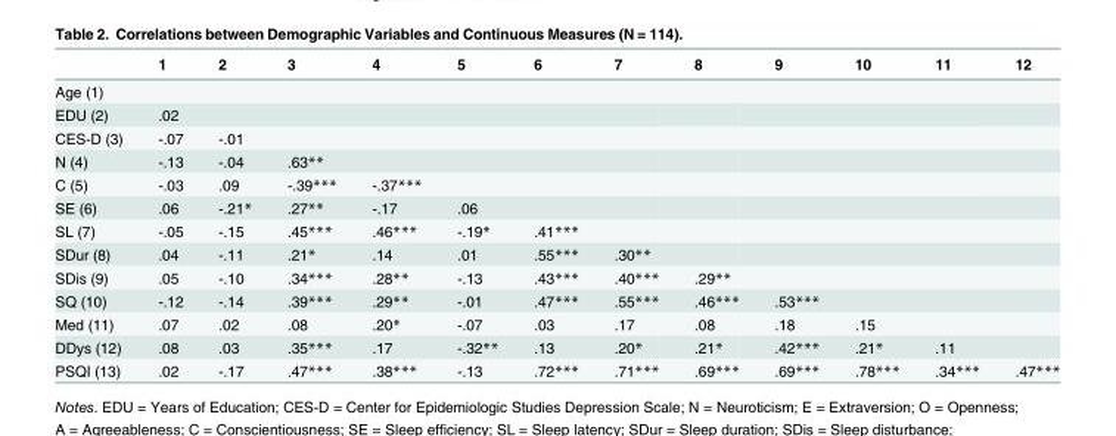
<table><thead><tr><td></td><td>1</td><td>2</td><td>3</td><td>4</td><td>5</td><td>6</td><td>7</td><td>8</td><td>9</td><td>10</td><td>11</td><td>12</td></tr></thead><tbody><tr><td colspan="13">Age (1)</td></tr><tr><td>EDU (2)</td><td>.02</td><td></td><td></td><td></td><td></td><td></td><td></td><td></td><td></td><td></td><td></td><td></td></tr><tr><td>CES-D (3)</td><td>-.07</td><td>-.01</td><td></td><td></td><td></td><td></td><td></td><td></td><td></td><td></td><td></td><td></td></tr><tr><td>N (4)</td><td>-.13</td><td>-.04</td><td>.63**</td><td></td><td></td><td></td><td></td><td></td><td></td><td></td><td></td><td></td></tr><tr><td>C (5)</td><td>-.03</td><td>.09</td><td>-.39***</td><td>-.37***</td><td></td><td></td><td></td><td></td><td></td><td></td><td></td><td></td></tr><tr><td>SE (6)</td><td>.06</td><td>-.21*</td><td>.27**</td><td>-.17</td><td>.06</td><td></td><td></td><td></td><td></td><td></td><td></td><td></td></tr><tr><td>SL (7)</td><td>-.05</td><td>-.15</td><td>.45***</td><td>.46***</td><td>-.19*</td><td>.41***</td><td></td><td></td><td></td><td></td><td></td><td></td></tr><tr><td>SDur (8)</td><td>.04</td><td>-.11</td><td>.21*</td><td>.14</td><td>.01</td><td>.55***</td><td>.30**</td><td></td><td></td><td></td><td></td><td></td></tr><tr><td>SDis (9)</td><td>.05</td><td>-.10</td><td>.34***</td><td>.28**</td><td>-.13</td><td>.43***</td><td>.40***</td><td>.29**</td><td></td><td></td><td></td><td></td></tr><tr><td>SQ (10)</td><td>-.12</td><td>-.14</td><td>.39***</td><td>.29**</td><td>-.01</td><td>.47***</td><td>.55***</td><td>.46***</td><td>.53***</td><td></td><td></td><td></td></tr><tr><td>Med (11)</td><td>.07</td><td>.02</td><td>.08</td><td>.20*</td><td>-.07</td><td>.03</td><td>.17</td><td>.08</td><td>.18</td><td>.15</td><td></td><td></td></tr><tr><td>DDys (12)</td><td>.08</td><td>.03</td><td>.35***</td><td>.17</td><td>-.32**</td><td>.13</td><td>.20*</td><td>.21*</td><td>.42***</td><td>.21*</td><td>.11</td><td></td></tr><tr><td>PSQI (13)</td><td>.02</td><td>-.17</td><td>.47***</td><td>.38***</td><td>-.13</td><td>.72***</td><td>.71***</td><td>.69***</td><td>.69***</td><td>.78***</td><td>.34***</td><td>.47***</td></tr></tbody></table>